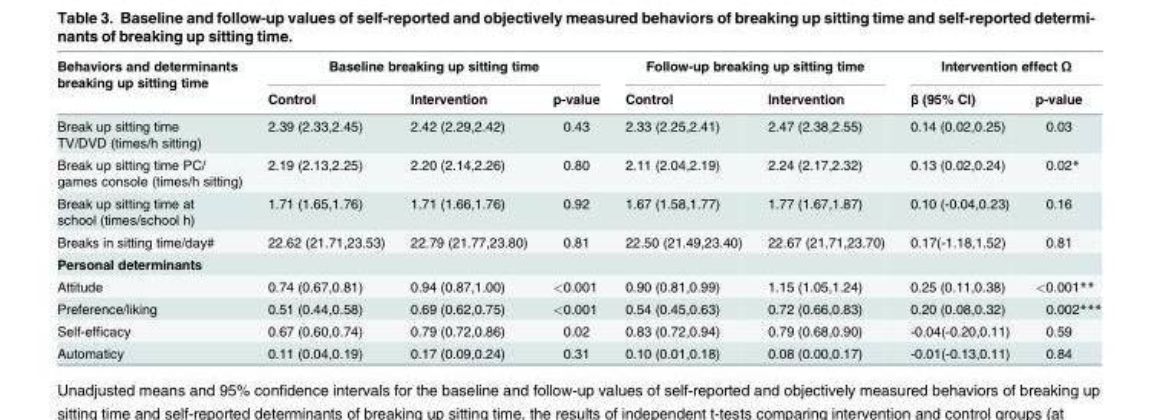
<table><thead><tr><td rowspan="2">Behaviors and determinants breaking up sitting time</td><td colspan="3">Baseline breaking up sitting time</td><td colspan="2">Follow-up breaking up sitting time</td><td colspan="2">Intervention effect Ω</td></tr><tr><td>Control</td><td>Intervention</td><td>p-value</td><td>Control</td><td>Intervention</td><td>β (95% CI)</td><td>p-value</td></tr></thead><tbody><tr><td>Break up sitting time TV/DVD (times/h sitting)</td><td>2.39 (2.33,2.45)</td><td>2.42 (2.29,2.42)</td><td>0.43</td><td>2.33 (2.25,2.41)</td><td>2.47 (2.38,2.55)</td><td>0.14 (0.02,0.25)</td><td>0.03</td></tr><tr><td>Break up sitting time PC/ games console (times/h sitting)</td><td>2.19 (2.13,2.25)</td><td>2.20 (2.14,2.26)</td><td>0.80</td><td>2.11 (2.04,2.19)</td><td>2.24 (2.17,2.32)</td><td>0.13 (0.02,0.24)</td><td>0.02*</td></tr><tr><td>Break up sitting time at school (times/school h)</td><td>1.71 (1.65,1.76)</td><td>1.71 (1.66,1.76)</td><td>0.92</td><td>1.67 (1.58,1.77)</td><td>1.77 (1.67,1.87)</td><td>0.10 (-0.04,0.23)</td><td>0.16</td></tr><tr><td>Breaks in sitting time/day#</td><td>22.62 (21.71,23.53)</td><td>22.79 (21.77,23.80)</td><td>0.81</td><td>22.50 (21.49,23.40)</td><td>22.67 (21.71,23.70)</td><td>0.17(-1.18,1.52)</td><td>0.81</td></tr><tr><td colspan="8">Personal determinants</td></tr><tr><td>Attitude</td><td>0.74 (0.67,0.81)</td><td>0.94 (0.87,1.00)</td><td>&lt;0.001</td><td>0.90 (0.81,0.99)</td><td>1.15 (1.05,1.24)</td><td>0.25 (0.11,0.38)</td><td>&lt;0.001**</td></tr><tr><td>Preference/liking</td><td>0.51 (0.44,0.58)</td><td>0.69 (0.62,0.75)</td><td>&lt;0.001</td><td>0.54 (0.45,0.63)</td><td>0.72 (0.66,0.83)</td><td>0.20 (0.08,0.32)</td><td>0.002***</td></tr><tr><td>Self-efficacy</td><td>0.67 (0.60,0.74)</td><td>0.79 (0.72,0.86)</td><td>0.02</td><td>0.83 (0.72,0.94)</td><td>0.79 (0.68,0.90)</td><td>-0.04(-0.20,0.11)</td><td>0.59</td></tr><tr><td>Automaticy</td><td>0.11 (0.04,0.19)</td><td>0.17 (0.09,0.24)</td><td>0.31</td><td>0.10 (0.01,0.18)</td><td>0.08 (0.00,0.17)</td><td>-0.01(-0.13,0.11)</td><td>0.84</td></tr></tbody></table>